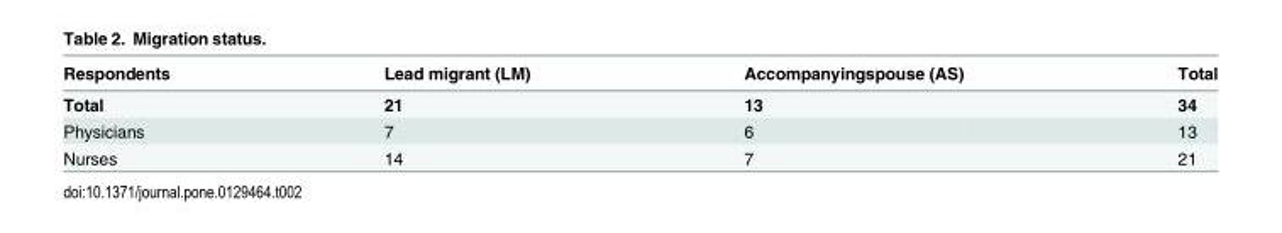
<table><thead><tr><td>Respondents</td><td>Lead migrant (LM)</td><td>Accompanyingspouse (AS)</td><td>Total</td></tr></thead><tbody><tr><td>Total</td><td>21</td><td>13</td><td>34</td></tr><tr><td>Physicians</td><td>7</td><td>6</td><td>13</td></tr><tr><td>Nurses</td><td>14</td><td>7</td><td>21</td></tr></tbody></table>